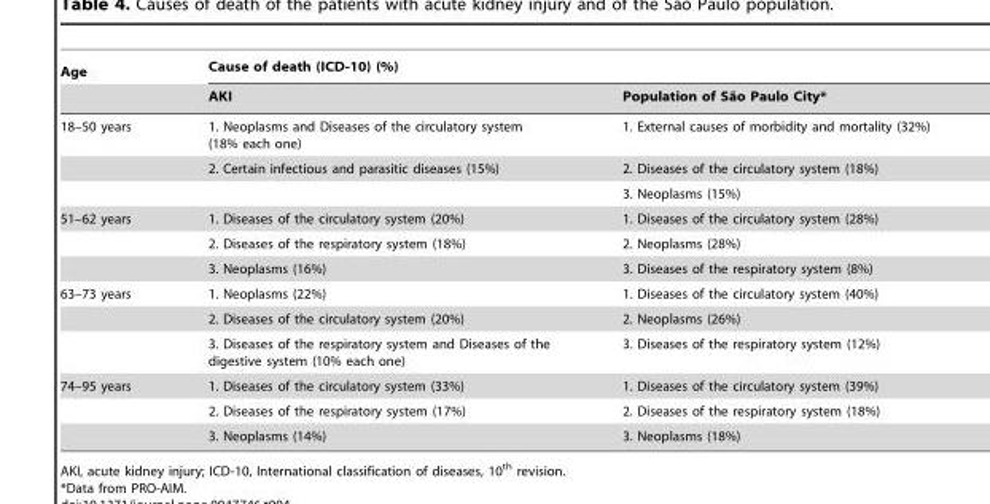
<table><thead><tr><td rowspan="2">Age</td><td colspan="2">Cause of death (ICD-10) (%)</td></tr><tr><td>AKI</td><td>Population of Sa˜o Paulo City*</td></tr></thead><tbody><tr><td rowspan="3">18–50 years</td><td>1. Neoplasms and Diseases of the circulatory system (18% each one)</td><td>1. External causes of morbidity and mortality (32%)</td></tr><tr><td>2. Certain infectious and parasitic diseases (15%)</td><td>2. Diseases of the circulatory system (18%)</td></tr><tr><td></td><td>3. Neoplasms (15%)</td></tr><tr><td rowspan="3">51–62 years</td><td>1. Diseases of the circulatory system (20%)</td><td>1. Diseases of the circulatory system (28%)</td></tr><tr><td>2. Diseases of the respiratory system (18%)</td><td>2. Neoplasms (28%)</td></tr><tr><td>3. Neoplasms (16%)</td><td>3. Diseases of the respiratory system (8%)</td></tr><tr><td rowspan="3">63–73 years</td><td>1. Neoplasms (22%)</td><td>1. Diseases of the circulatory system (40%)</td></tr><tr><td>2. Diseases of the circulatory system (20%)</td><td>2. Neoplasms (26%)</td></tr><tr><td>3. Diseases of the respiratory system and Diseases of the digestive system (10% each one)</td><td>3. Diseases of the respiratory system (12%)</td></tr><tr><td rowspan="3">74–95 years</td><td>1. Diseases of the circulatory system (33%)</td><td>1. Diseases of the circulatory system (39%)</td></tr><tr><td>2. Diseases of the respiratory system (17%)</td><td>2. Diseases of the respiratory system (18%)</td></tr><tr><td>3. Neoplasms (14%)</td><td>3. Neoplasms (18%)</td></tr></tbody></table>